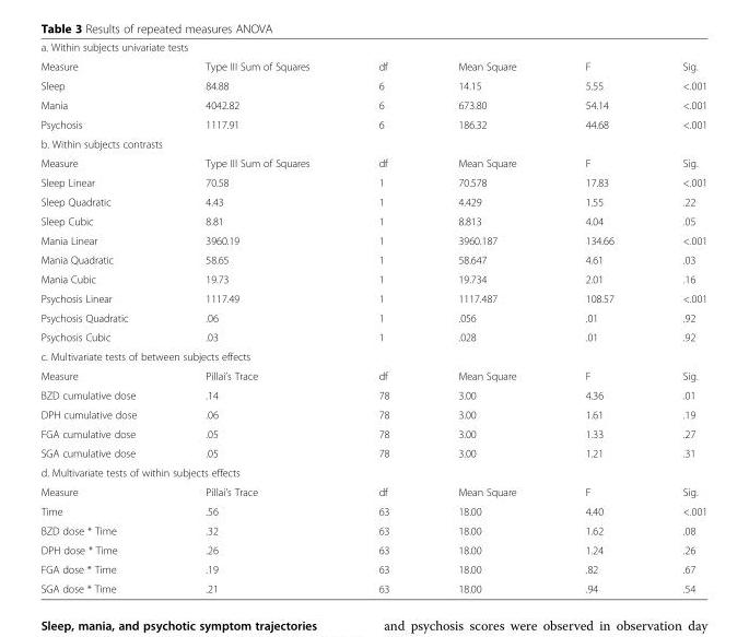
<table><tbody><tr><td colspan="6">a. Within subjects univariate tests</td></tr><tr><td>Measure</td><td>Type III Sum of Squares</td><td>df</td><td>Mean Square</td><td>F</td><td>Sig.</td></tr><tr><td>Sleep</td><td>84.88</td><td>6</td><td>14.15</td><td>5.55</td><td>&lt;.001</td></tr><tr><td>Mania</td><td>4042.82</td><td>6</td><td>673.80</td><td>54.14</td><td>&lt;.001</td></tr><tr><td>Psychosis</td><td>1117.91</td><td>6</td><td>186.32</td><td>44.68</td><td>&lt;.001</td></tr><tr><td colspan="6">b. Within subjects contrasts</td></tr><tr><td>Measure</td><td>Type III Sum of Squares</td><td>df</td><td>Mean Square</td><td>F</td><td>Sig.</td></tr><tr><td>Sleep Linear</td><td>70.58</td><td>1</td><td>70.578</td><td>17.83</td><td>&lt;.001</td></tr><tr><td>Sleep Quadratic</td><td>4.43</td><td>1</td><td>4.429</td><td>1.55</td><td>.22</td></tr><tr><td>Sleep Cubic</td><td>8.81</td><td>1</td><td>8.813</td><td>4.04</td><td>.05</td></tr><tr><td>Mania Linear</td><td>3960.19</td><td>1</td><td>3960.187</td><td>134.66</td><td>&lt;.001</td></tr><tr><td>Mania Quadratic</td><td>58.65</td><td>1</td><td>58.647</td><td>4.61</td><td>.03</td></tr><tr><td>Mania Cubic</td><td>19.73</td><td>1</td><td>19.734</td><td>2.01</td><td>.16</td></tr><tr><td>Psychosis Linear</td><td>1117.49</td><td>1</td><td>1117.487</td><td>108.57</td><td>&lt;.001</td></tr><tr><td>Psychosis Quadratic</td><td>.06</td><td>1</td><td>.056</td><td>.01</td><td>.92</td></tr><tr><td>Psychosis Cubic</td><td>.03</td><td>1</td><td>.028</td><td>.01</td><td>.92</td></tr><tr><td colspan="6">c. Multivariate tests of between subjects effects</td></tr><tr><td>Measure</td><td>Pillai’s Trace</td><td>df</td><td>Mean Square</td><td>F</td><td>Sig.</td></tr><tr><td>BZD cumulative dose</td><td>.14</td><td>78</td><td>3.00</td><td>4.36</td><td>.01</td></tr><tr><td>DPH cumulative dose</td><td>.06</td><td>78</td><td>3.00</td><td>1.61</td><td>.19</td></tr><tr><td>FGA cumulative dose</td><td>.05</td><td>78</td><td>3.00</td><td>1.33</td><td>.27</td></tr><tr><td>SGA cumulative dose</td><td>.05</td><td>78</td><td>3.00</td><td>1.21</td><td>.31</td></tr><tr><td colspan="6">d. Multivariate tests of within subjects effects</td></tr><tr><td>Measure</td><td>Pillai’s Trace</td><td>df</td><td>Mean Square</td><td>F</td><td>Sig.</td></tr><tr><td>Time</td><td>.56</td><td>63</td><td>18.00</td><td>4.40</td><td>&lt;.001</td></tr><tr><td>BZD dose * Time</td><td>.32</td><td>63</td><td>18.00</td><td>1.62</td><td>.08</td></tr><tr><td>DPH dose * Time</td><td>.26</td><td>63</td><td>18.00</td><td>1.24</td><td>.26</td></tr><tr><td>FGA dose * Time</td><td>.19</td><td>63</td><td>18.00</td><td>.82</td><td>.67</td></tr><tr><td>SGA dose * Time</td><td>.21</td><td>63</td><td>18.00</td><td>.94</td><td>.54</td></tr></tbody></table>